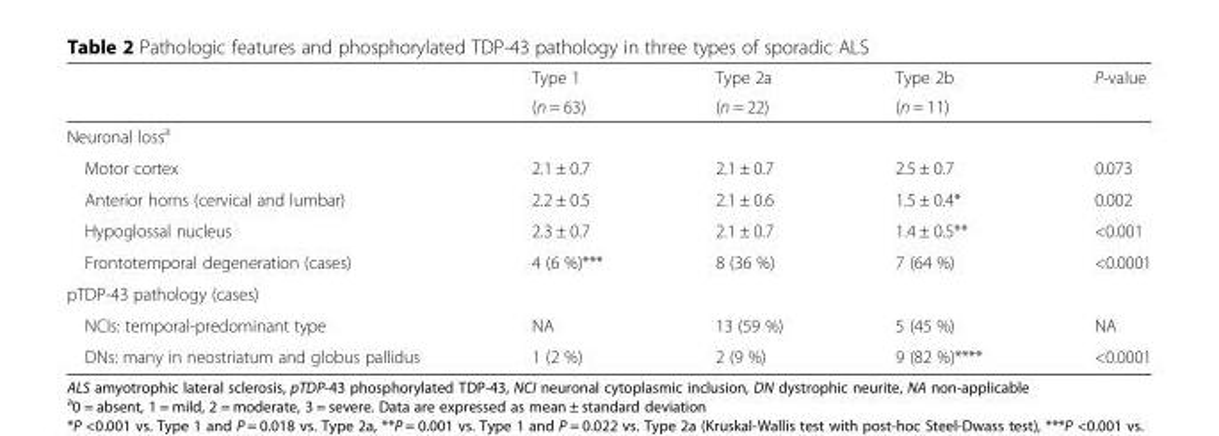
<table><thead><tr><td rowspan="2"></td><td rowspan="2">Type 1 (n = 63)</td><td rowspan="2">Type 2a (n = 22)</td><td rowspan="2">Type 2b (n = 11)</td><td rowspan="2">P-value</td></tr><tr></tr></thead><tbody><tr><td colspan="5">Neuronal loss<sup>a</sup></td></tr><tr><td>Motor cortex</td><td>2.1 ± 0.7</td><td>2.1 ± 0.7</td><td>2.5 ± 0.7</td><td>0.073</td></tr><tr><td>Anterior horns (cervical and lumbar)</td><td>2.2 ± 0.5</td><td>2.1 ± 0.6</td><td>1.5 ± 0.4*</td><td>0.002</td></tr><tr><td>Hypoglossal nucleus</td><td>2.3 ± 0.7</td><td>2.1 ± 0.7</td><td>1.4 ± 0.5**</td><td>&lt;0.001</td></tr><tr><td>Frontotemporal degeneration (cases)</td><td>4 (6 %)***</td><td>8 (36 %)</td><td>7 (64 %)</td><td>&lt;0.0001</td></tr><tr><td colspan="5">pTDP-43 pathology (cases)</td></tr><tr><td>NCIs: temporal-predominant type</td><td>NA</td><td>13 (59 %)</td><td>5 (45 %)</td><td>NA</td></tr><tr><td>DNs: many in neostriatum and globus pallidus</td><td>1 (2 %)</td><td>2 (9 %)</td><td>9 (82 %)****</td><td>&lt;0.0001</td></tr></tbody></table>